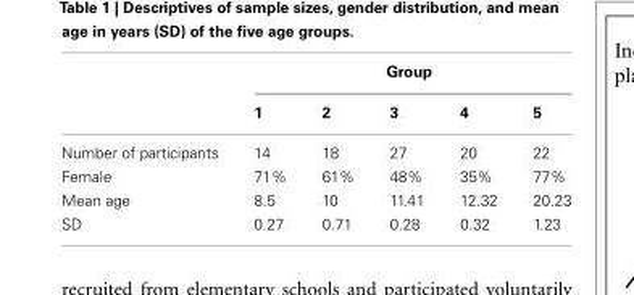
<table><thead><tr><td rowspan="2"></td><td colspan="5">Group</td></tr><tr><td>1</td><td>2</td><td>3</td><td>4</td><td>5</td></tr></thead><tbody><tr><td>Number of participants</td><td>14</td><td>18</td><td>27</td><td>20</td><td>22</td></tr><tr><td>Female</td><td>71%</td><td>61%</td><td>48%</td><td>35%</td><td>77%</td></tr><tr><td>Mean age</td><td>8.5</td><td>10</td><td>11.41</td><td>12.32</td><td>20.23</td></tr><tr><td>SD</td><td>0.27</td><td>0.71</td><td>0.28</td><td>0.32</td><td>1.23</td></tr></tbody></table>